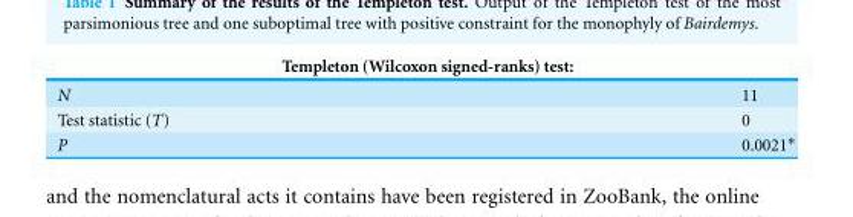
<table><thead><tr><td colspan="2">Templeton (Wilcoxon signed-ranks) test:</td></tr><tr><td>N</td><td>11</td></tr></thead><tbody><tr><td>Test statistic (T)</td><td>0</td></tr><tr><td>P</td><td>0.0021∗</td></tr></tbody></table>